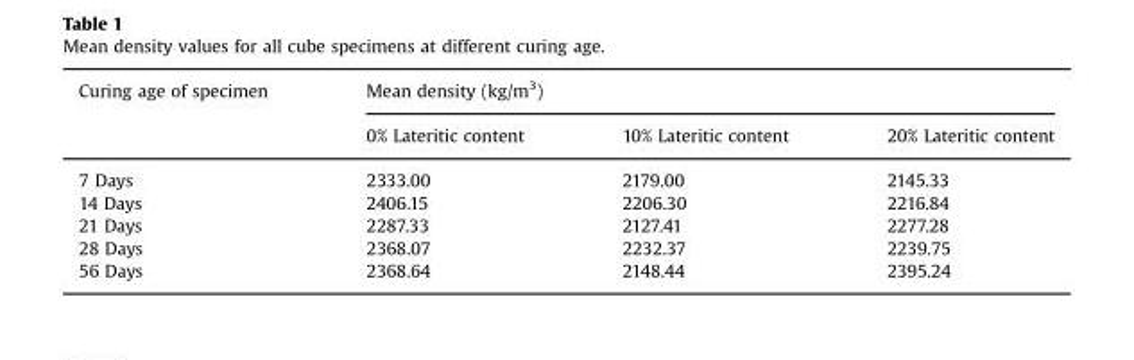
<table><thead><tr><td rowspan="2">Curing age of specimen</td><td colspan="3">Mean density (kg/m<sup>3</sup>)</td></tr><tr><td>0% Lateritic content</td><td>10% Lateritic content</td><td>20% Lateritic content</td></tr></thead><tbody><tr><td>7 Days</td><td>2333.00</td><td>2179.00</td><td>2145.33</td></tr><tr><td>14 Days</td><td>2406.15</td><td>2206.30</td><td>2216.84</td></tr><tr><td>21 Days</td><td>2287.33</td><td>2127.41</td><td>2277.28</td></tr><tr><td>28 Days</td><td>2368.07</td><td>2232.37</td><td>2239.75</td></tr><tr><td>56 Days</td><td>2368.64</td><td>2148.44</td><td>2395.24</td></tr></tbody></table>